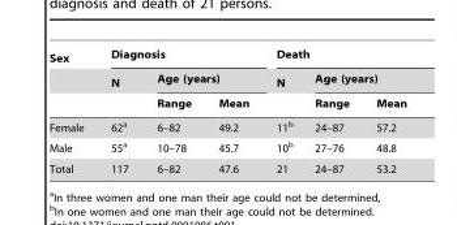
<table><thead><tr><td rowspan="3">Sex</td><td colspan="3">Diagnosis</td><td colspan="3">Death</td></tr><tr><td rowspan="2">N</td><td colspan="2">Age (years)</td><td rowspan="2">N</td><td colspan="2">Age (years)</td></tr><tr><td>Range</td><td>Mean</td><td>Range</td><td>Mean</td></tr></thead><tbody><tr><td>Female</td><td>62<sup>a</sup></td><td>6–82</td><td>49.2</td><td>11<sup>b</sup></td><td>24–87</td><td>57.2</td></tr><tr><td>Male</td><td>55<sup>a</sup></td><td>10–78</td><td>45.7</td><td>10<sup>b</sup></td><td>27–76</td><td>48.8</td></tr><tr><td>Total</td><td>117</td><td>6–82</td><td>47.6</td><td>21</td><td>24–87</td><td>53.2</td></tr></tbody></table>